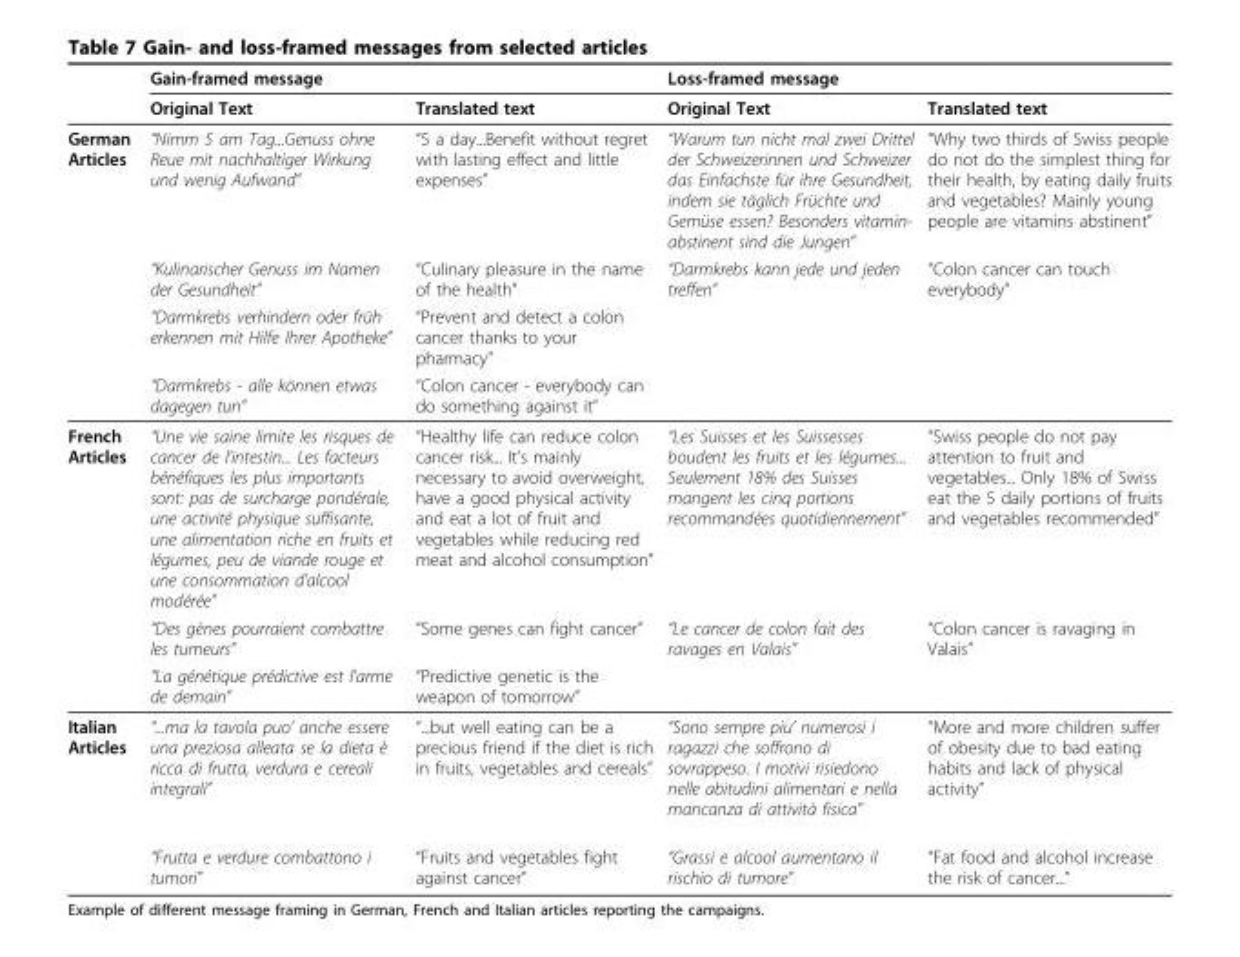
<table><thead><tr><td rowspan="2"></td><td colspan="2">Gain-framed message</td><td colspan="2">Loss-framed message</td></tr><tr><td>Original Text</td><td>Translated text</td><td>Original Text</td><td>Translated text</td></tr></thead><tbody><tr><td rowspan="4">German Articles</td><td>“Nimm 5 am Tag...Genuss ohne Reue mit nachhaltiger Wirkung und wenig Aufwand”</td><td>“5 a day...Benefit without regret with lasting effect and little expenses”</td><td>“Warum tun nicht mal zwei Drittel der Schweizerinnen und Schweizer das Einfachste für ihre Gesundheit, indem sie täglich Früchte und Gemüse essen? Besonders vitamin- abstinent sind die Jungen”</td><td>“Why two thirds of Swiss people do not do the simplest thing for their health, by eating daily fruits and vegetables? Mainly young people are vitamins abstinent”</td></tr><tr><td>“Kulinarischer Genuss im Namen der Gesundheit”</td><td>“Culinary pleasure in the name of the health”</td><td>“Darmkrebs kann jede und jeden treffen”</td><td>“Colon cancer can touch everybody”</td></tr><tr><td>“Darmkrebs verhindern oder früh erkennen mit Hilfe Ihrer Apotheke”</td><td>“Prevent and detect a colon cancer thanks to your pharmacy”</td><td></td><td></td></tr><tr><td>“Darmkrebs - alle können etwas dagegen tun”</td><td>“Colon cancer - everybody can do something against it”</td><td></td><td></td></tr><tr><td rowspan="3">French Articles</td><td>“Une vie saine limite les risques de cancer de l’intestin... Les facteurs bénéfiques les plus importants sont: pas de surcharge pondérale, une activité physique suffisante, une alimentation riche en fruits et légumes, peu de viande rouge et une consommation d’alcool modérée”</td><td>“Healthy life can reduce colon cancer risk... It’s mainly necessary to avoid overweight, have a good physical activity and eat a lot of fruit and vegetables while reducing red meat and alcohol consumption”</td><td>“Les Suisses et les Suissesses boudent les fruits et les légumes... Seulement 18% des Suisses mangent les cinq portions recommandées quotidiennement”</td><td>“Swiss people do not pay attention to fruit and vegetables... Only 18% of Swiss eat the 5 daily portions of fruits and vegetables recommended”</td></tr><tr><td>“Des gènes pourraient combattre les tumeurs”</td><td>“Some genes can fight cancer”</td><td>“Le cancer de colon fait des ravages en Valais”</td><td>“Colon cancer is ravaging in Valais”</td></tr><tr><td>“La génétique prédictive est l’arme de demain”</td><td>“Predictive genetic is the weapon of tomorrow”</td><td></td><td></td></tr><tr><td rowspan="2">Italian Articles</td><td>“...ma la tavola puo’ anche essere una preziosa alleata se la dieta è ricca di frutta, verdura e cereali integrali”</td><td>“...but well eating can be a precious friend if the diet is rich in fruits, vegetables and cereals”</td><td>“Sono sempre piu’ numerosi i ragazzi che soffrono di sovrappeso. I motivi risiedono nelle abitudini alimentari e nella mancanza di attività fisica”</td><td>“More and more children suffer of obesity due to bad eating habits and lack of physical activity”</td></tr><tr><td>“Frutta e verdure combattono i tumori”</td><td>“Fruits and vegetables fight against cancer”</td><td>“Grassi e alcool aumentano il rischio di tumore”</td><td>“Fat food and alcohol increase the risk of cancer...”</td></tr></tbody></table>